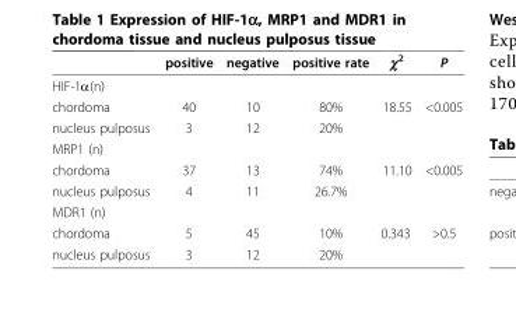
<table><thead><tr><td></td><td>positive</td><td>negative</td><td>positive rate</td><td>χ<sup>2</sup></td><td>P</td></tr></thead><tbody><tr><td colspan="6">HIF-1α(n)</td></tr><tr><td>chordoma</td><td>40</td><td>10</td><td>80%</td><td>18.55</td><td>&lt;0.005</td></tr><tr><td>nucleus pulposus</td><td>3</td><td>12</td><td>20%</td><td></td><td></td></tr><tr><td colspan="6">MRP1 (n)</td></tr><tr><td>chordoma</td><td>37</td><td>13</td><td>74%</td><td>11.10</td><td>&lt;0.005</td></tr><tr><td>nucleus pulposus</td><td>4</td><td>11</td><td>26.7%</td><td></td><td></td></tr><tr><td colspan="6">MDR1 (n)</td></tr><tr><td>chordoma</td><td>5</td><td>45</td><td>10%</td><td>0.343</td><td>&gt;0.5</td></tr><tr><td>nucleus pulposus</td><td>3</td><td>12</td><td>20%</td><td></td><td></td></tr></tbody></table>